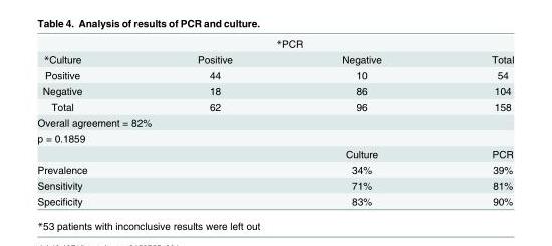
<table><thead><tr><td rowspan="2">*Culture</td><td colspan="2">*PCR</td><td rowspan="2">Total</td></tr><tr><td>Positive</td><td>Negative</td></tr></thead><tbody><tr><td>Positive</td><td>44</td><td>10</td><td>54</td></tr><tr><td>Negative</td><td>18</td><td>86</td><td>104</td></tr><tr><td>Total</td><td>62</td><td>96</td><td>158</td></tr><tr><td colspan="4">Overall agreement = 82%</td></tr><tr><td colspan="4">p = 0.1859</td></tr><tr><td></td><td></td><td>Culture</td><td>PCR</td></tr><tr><td>Prevalence</td><td></td><td>34%</td><td>39%</td></tr><tr><td>Sensitivity</td><td></td><td>71%</td><td>81%</td></tr><tr><td>Specificity</td><td></td><td>83%</td><td>90%</td></tr></tbody></table>